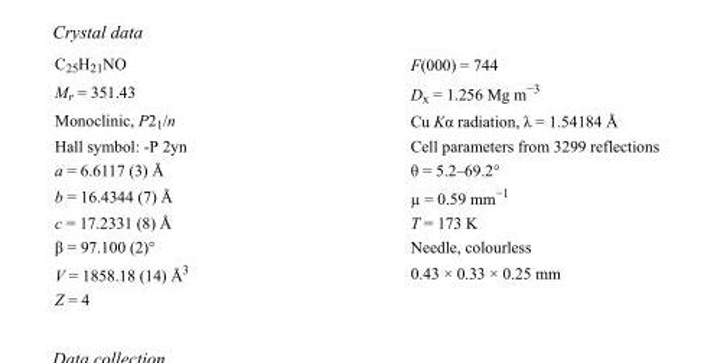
<table><tbody><tr><td>C<sub>25</sub>H<sub>21</sub>NO</td><td>F(000) = 744</td></tr><tr><td>M<sub>r</sub> = 351.43</td><td>D<sub>x</sub> = 1.256 Mg m<sup>−3</sup></td></tr><tr><td>Monoclinic, P2<sub>1</sub>/n</td><td>Cu Kα radiation, λ = 1.54184 Å</td></tr><tr><td>Hall symbol: -P 2yn</td><td>Cell parameters from 3299 reflections</td></tr><tr><td>a = 6.6117 (3) Å</td><td>θ = 5.2–69.2°</td></tr><tr><td>b = 16.4344 (7) Å</td><td>µ = 0.59 mm<sup>−1</sup></td></tr><tr><td>c = 17.2331 (8) Å</td><td>T = 173 K</td></tr><tr><td>β = 97.100 (2)°</td><td>Needle, colourless</td></tr><tr><td>V = 1858.18 (14) Å<sup>3</sup></td><td>0.43 × 0.33 × 0.25 mm</td></tr><tr><td>Z = 4</td><td></td></tr></tbody></table>